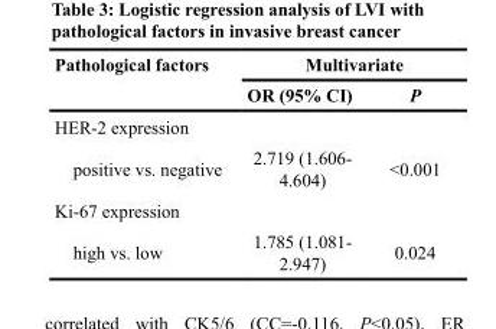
<table><thead><tr><td rowspan="2">Pathological factors</td><td colspan="2">Multivariate</td></tr><tr><td>OR (95% CI)</td><td>P</td></tr></thead><tbody><tr><td colspan="3">HER-2 expression</td></tr><tr><td>positive vs. negative</td><td>2.719 (1.606- 4.604)</td><td>&lt;0.001</td></tr><tr><td colspan="3">Ki-67 expression</td></tr><tr><td>high vs. low</td><td>1.785 (1.081- 2.947)</td><td>0.024</td></tr></tbody></table>